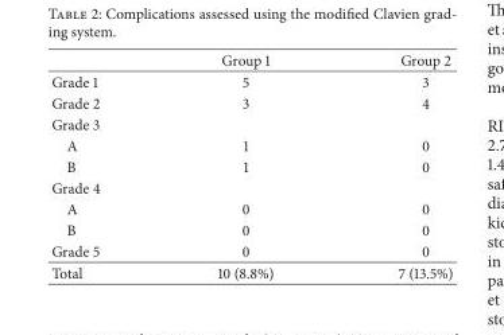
<table><thead><tr><td></td><td>Group 1</td><td>Group 2</td></tr></thead><tbody><tr><td>Grade 1</td><td>5</td><td>3</td></tr><tr><td>Grade 2</td><td>3</td><td>4</td></tr><tr><td colspan="3">Grade 3</td></tr><tr><td>A</td><td>1</td><td>0</td></tr><tr><td>B</td><td>1</td><td>0</td></tr><tr><td colspan="3">Grade 4</td></tr><tr><td>A</td><td>0</td><td>0</td></tr><tr><td>B</td><td>0</td><td>0</td></tr><tr><td>Grade 5</td><td>0</td><td>0</td></tr><tr><td>Total</td><td>10 (8.8%)</td><td>7 (13.5%)</td></tr></tbody></table>